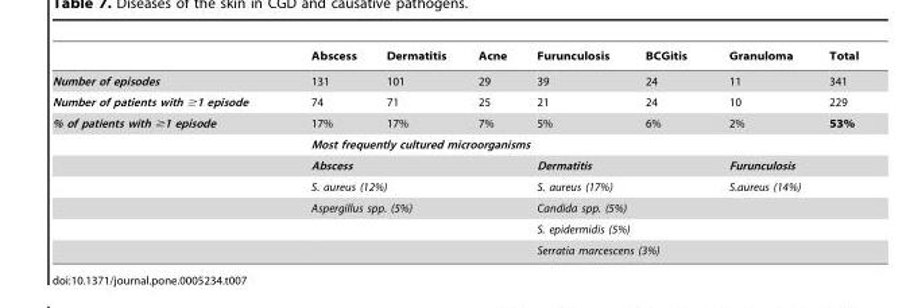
<table><thead><tr><td></td><td>Abscess</td><td>Dermatitis</td><td>Acne</td><td>Furunculosis</td><td>BCGitis</td><td>Granuloma</td><td>Total</td></tr></thead><tbody><tr><td>Number of episodes</td><td>131</td><td>101</td><td>29</td><td>39</td><td>24</td><td>11</td><td>341</td></tr><tr><td>Number of patients with ≥1 episode</td><td>74</td><td>71</td><td>25</td><td>21</td><td>24</td><td>10</td><td>229</td></tr><tr><td rowspan="7">% of patients with ≥1 episode</td><td>17%</td><td>17%</td><td>7%</td><td>5%</td><td>6%</td><td>2%</td><td>53%</td></tr><tr><td colspan="7">Most frequently cultured microorganisms</td></tr><tr><td colspan="3">Abscess</td><td colspan="2">Dermatitis</td><td colspan="2">Furunculosis</td></tr><tr><td colspan="3">S. aureus (12%)</td><td colspan="2">S. aureus (17%)</td><td colspan="2">S.aureus (14%)</td></tr><tr><td colspan="3">Aspergillus spp. (5%)</td><td colspan="2">Candida spp. (5%)</td><td colspan="2"></td></tr><tr><td colspan="3"></td><td colspan="2">S. epidermidis (5%)</td><td colspan="2"></td></tr><tr><td colspan="3"></td><td colspan="2">Serratia marcescens (3%)</td><td colspan="2"></td></tr></tbody></table>